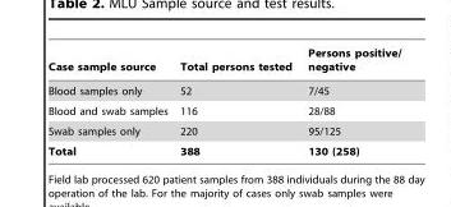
<table><thead><tr><td>Case sample source</td><td>Total persons tested</td><td>Persons positive/ negative</td></tr></thead><tbody><tr><td>Blood samples only</td><td>52</td><td>7/45</td></tr><tr><td>Blood and swab samples</td><td>116</td><td>28/88</td></tr><tr><td>Swab samples only</td><td>220</td><td>95/125</td></tr><tr><td>Total</td><td>388</td><td>130 (258)</td></tr></tbody></table>